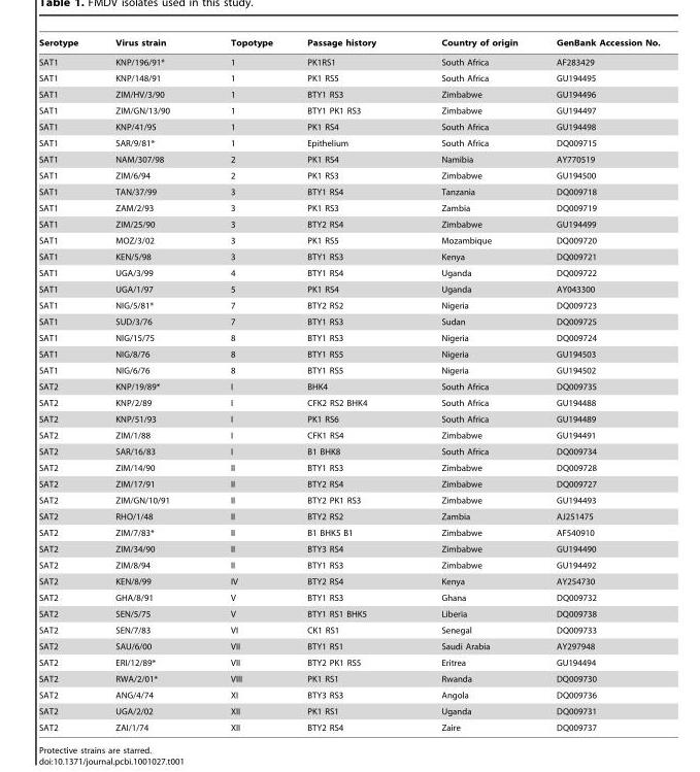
<table><thead><tr><td>Serotype</td><td>Virus strain</td><td>Topotype</td><td>Passage history</td><td>Country of origin</td><td>GenBank Accession No.</td></tr></thead><tbody><tr><td>SAT1</td><td>KNP/196/91*</td><td>1</td><td>PK1RS1</td><td>South Africa</td><td>AF283429</td></tr><tr><td>SAT1</td><td>KNP/148/91</td><td>1</td><td>PK1 RS5</td><td>South Africa</td><td>GU194495</td></tr><tr><td>SAT1</td><td>ZIM/HV/3/90</td><td>1</td><td>BTY1 RS3</td><td>Zimbabwe</td><td>GU194496</td></tr><tr><td>SAT1</td><td>ZIM/GN/13/90</td><td>1</td><td>BTY1 PK1 RS3</td><td>Zimbabwe</td><td>GU194497</td></tr><tr><td>SAT1</td><td>KNP/41/95</td><td>1</td><td>PK1 RS4</td><td>South Africa</td><td>GU194498</td></tr><tr><td>SAT1</td><td>SAR/9/81*</td><td>1</td><td>Epithelium</td><td>South Africa</td><td>DQ009715</td></tr><tr><td>SAT1</td><td>NAM/307/98</td><td>2</td><td>PK1 RS4</td><td>Namibia</td><td>AY770519</td></tr><tr><td>SAT1</td><td>ZIM/6/94</td><td>2</td><td>PK1 RS3</td><td>Zimbabwe</td><td>GU194500</td></tr><tr><td>SAT1</td><td>TAN/37/99</td><td>3</td><td>BTY1 RS4</td><td>Tanzania</td><td>DQ009718</td></tr><tr><td>SAT1</td><td>ZAM/2/93</td><td>3</td><td>PK1 RS3</td><td>Zambia</td><td>DQ009719</td></tr><tr><td>SAT1</td><td>ZIM/25/90</td><td>3</td><td>BTY2 RS4</td><td>Zimbabwe</td><td>GU194499</td></tr><tr><td>SAT1</td><td>MOZ/3/02</td><td>3</td><td>PK1 RS5</td><td>Mozambique</td><td>DQ009720</td></tr><tr><td>SAT1</td><td>KEN/5/98</td><td>3</td><td>BTY1 RS3</td><td>Kenya</td><td>DQ009721</td></tr><tr><td>SAT1</td><td>UGA/3/99</td><td>4</td><td>BTY1 RS4</td><td>Uganda</td><td>DQ009722</td></tr><tr><td>SAT1</td><td>UGA/1/97</td><td>5</td><td>PK1 RS4</td><td>Uganda</td><td>AY043300</td></tr><tr><td>SAT1</td><td>NIG/5/81*</td><td>7</td><td>BTY2 RS2</td><td>Nigeria</td><td>DQ009723</td></tr><tr><td>SAT1</td><td>SUD/3/76</td><td>7</td><td>BTY1 RS3</td><td>Sudan</td><td>DQ009725</td></tr><tr><td>SAT1</td><td>NIG/15/75</td><td>8</td><td>BTY1 RS3</td><td>Nigeria</td><td>DQ009724</td></tr><tr><td>SAT1</td><td>NIG/8/76</td><td>8</td><td>BTY1 RS5</td><td>Nigeria</td><td>GU194503</td></tr><tr><td>SAT1</td><td>NIG/6/76</td><td>8</td><td>BTY1 RS5</td><td>Nigeria</td><td>GU194502</td></tr><tr><td>SAT2</td><td>KNP/19/89*</td><td>I</td><td>BHK4</td><td>South Africa</td><td>DQ009735</td></tr><tr><td>SAT2</td><td>KNP/2/89</td><td>I</td><td>CFK2 RS2 BHK4</td><td>South Africa</td><td>GU194488</td></tr><tr><td>SAT2</td><td>KNP/51/93</td><td>I</td><td>PK1 RS6</td><td>South Africa</td><td>GU194489</td></tr><tr><td>SAT2</td><td>ZIM/1/88</td><td>I</td><td>CFK1 RS4</td><td>Zimbabwe</td><td>GU194491</td></tr><tr><td>SAT2</td><td>SAR/16/83</td><td>I</td><td>B1 BHK8</td><td>South Africa</td><td>DQ009734</td></tr><tr><td>SAT2</td><td>ZIM/14/90</td><td>II</td><td>BTY1 RS3</td><td>Zimbabwe</td><td>DQ009728</td></tr><tr><td>SAT2</td><td>ZIM/17/91</td><td>II</td><td>BTY2 RS4</td><td>Zimbabwe</td><td>DQ009727</td></tr><tr><td>SAT2</td><td>ZIM/GN/10/91</td><td>II</td><td>BTY2 PK1 RS3</td><td>Zimbabwe</td><td>GU194493</td></tr><tr><td>SAT2</td><td>RHO/1/48</td><td>II</td><td>BTY2 RS2</td><td>Zambia</td><td>AJ251475</td></tr><tr><td>SAT2</td><td>ZIM/7/83*</td><td>II</td><td>B1 BHK5 B1</td><td>Zimbabwe</td><td>AF540910</td></tr><tr><td>SAT2</td><td>ZIM/34/90</td><td>II</td><td>BTY3 RS4</td><td>Zimbabwe</td><td>GU194490</td></tr><tr><td>SAT2</td><td>ZIM/8/94</td><td>II</td><td>BTY1 RS3</td><td>Zimbabwe</td><td>GU194492</td></tr><tr><td>SAT2</td><td>KEN/8/99</td><td>IV</td><td>BTY2 RS4</td><td>Kenya</td><td>AY254730</td></tr><tr><td>SAT2</td><td>GHA/8/91</td><td>V</td><td>BTY1 RS3</td><td>Ghana</td><td>DQ009732</td></tr><tr><td>SAT2</td><td>SEN/5/75</td><td>V</td><td>BTY1 RS1 BHK5</td><td>Liberia</td><td>DQ009738</td></tr><tr><td>SAT2</td><td>SEN/7/83</td><td>VI</td><td>CK1 RS1</td><td>Senegal</td><td>DQ009733</td></tr><tr><td>SAT2</td><td>SAU/6/00</td><td>VII</td><td>BTY1 RS1</td><td>Saudi Arabia</td><td>AY297948</td></tr><tr><td>SAT2</td><td>ERI/12/89*</td><td>VII</td><td>BTY2 PK1 RS5</td><td>Eritrea</td><td>GU194494</td></tr><tr><td>SAT2</td><td>RWA/2/01*</td><td>VIII</td><td>PK1 RS1</td><td>Rwanda</td><td>DQ009730</td></tr><tr><td>SAT2</td><td>ANG/4/74</td><td>XI</td><td>BTY3 RS3</td><td>Angola</td><td>DQ009736</td></tr><tr><td>SAT2</td><td>UGA/2/02</td><td>XII</td><td>PK1 RS1</td><td>Uganda</td><td>DQ009731</td></tr><tr><td>SAT2</td><td>ZAI/1/74</td><td>XII</td><td>BTY2 RS4</td><td>Zaire</td><td>DQ009737</td></tr></tbody></table>